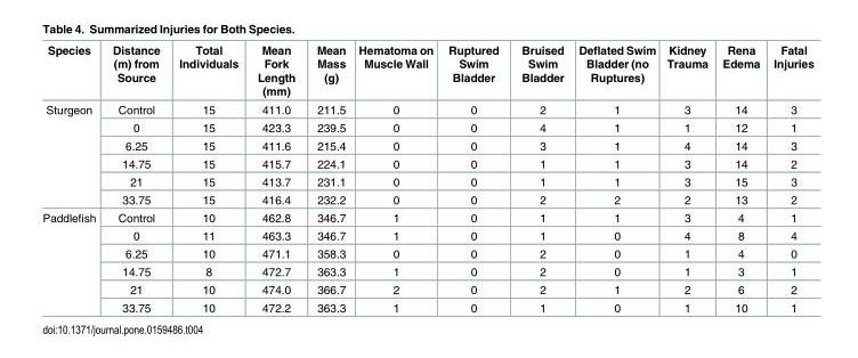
<table><thead><tr><td>Species</td><td>Distance (m) from Source</td><td>Total Individuals</td><td>Mean Fork Length (mm)</td><td>Mean Mass (g)</td><td>Hematoma on Muscle Wall</td><td>Ruptured Swim Bladder</td><td>Bruised Swim Bladder</td><td>Deflated Swim Bladder (no Ruptures)</td><td>Kidney Trauma</td><td>Rena Edema</td><td>Fatal Injuries</td></tr></thead><tbody><tr><td rowspan="6">Sturgeon</td><td>Control</td><td>15</td><td>411.0</td><td>211.5</td><td>0</td><td>0</td><td>2</td><td>1</td><td>3</td><td>14</td><td>3</td></tr><tr><td>0</td><td>15</td><td>423.3</td><td>239.5</td><td>0</td><td>0</td><td>4</td><td>1</td><td>1</td><td>12</td><td>1</td></tr><tr><td>6.25</td><td>15</td><td>411.6</td><td>215.4</td><td>0</td><td>0</td><td>3</td><td>1</td><td>4</td><td>14</td><td>3</td></tr><tr><td>14.75</td><td>15</td><td>415.7</td><td>224.1</td><td>0</td><td>0</td><td>1</td><td>1</td><td>3</td><td>14</td><td>2</td></tr><tr><td>21</td><td>15</td><td>413.7</td><td>231.1</td><td>0</td><td>0</td><td>1</td><td>1</td><td>3</td><td>15</td><td>3</td></tr><tr><td>33.75</td><td>15</td><td>416.4</td><td>232.2</td><td>0</td><td>0</td><td>2</td><td>2</td><td>2</td><td>13</td><td>2</td></tr><tr><td rowspan="6">Paddlefish</td><td>Control</td><td>10</td><td>462.8</td><td>346.7</td><td>1</td><td>0</td><td>1</td><td>1</td><td>3</td><td>4</td><td>1</td></tr><tr><td>0</td><td>11</td><td>463.3</td><td>346.7</td><td>1</td><td>0</td><td>1</td><td>0</td><td>4</td><td>8</td><td>4</td></tr><tr><td>6.25</td><td>10</td><td>471.1</td><td>358.3</td><td>0</td><td>0</td><td>2</td><td>0</td><td>1</td><td>4</td><td>0</td></tr><tr><td>14.75</td><td>8</td><td>472.7</td><td>363.3</td><td>1</td><td>0</td><td>2</td><td>0</td><td>1</td><td>3</td><td>1</td></tr><tr><td>21</td><td>10</td><td>474.0</td><td>366.7</td><td>2</td><td>0</td><td>2</td><td>1</td><td>2</td><td>6</td><td>2</td></tr><tr><td>33.75</td><td>10</td><td>472.2</td><td>363.3</td><td>1</td><td>0</td><td>1</td><td>0</td><td>1</td><td>10</td><td>1</td></tr></tbody></table>